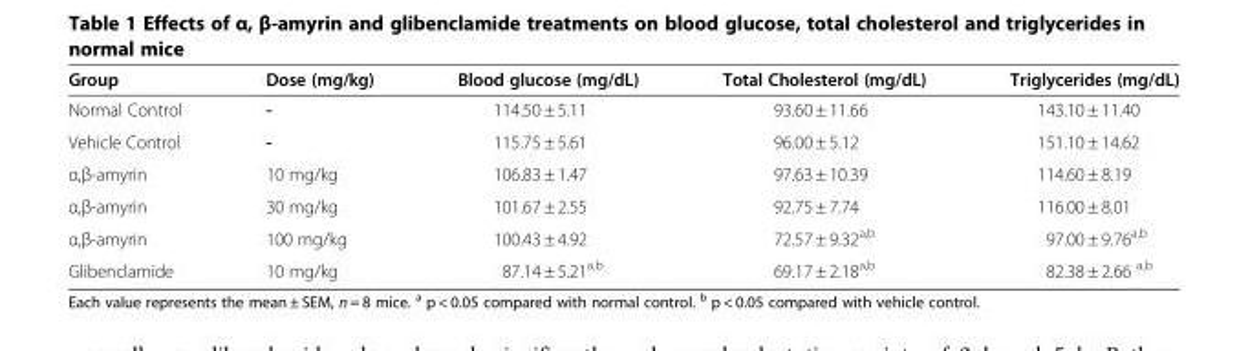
<table><thead><tr><td>Group</td><td>Dose (mg/kg)</td><td>Blood glucose (mg/dL)</td><td>Total Cholesterol (mg/dL)</td><td>Triglycerides (mg/dL)</td></tr></thead><tbody><tr><td>Normal Control</td><td>-</td><td>114.50 ± 5.11</td><td>93.60 ± 11.66</td><td>143.10 ± 11.40</td></tr><tr><td>Vehicle Control</td><td>-</td><td>115.75 ± 5.61</td><td>96.00 ± 5.12</td><td>151.10 ± 14.62</td></tr><tr><td>α,β-amyrin</td><td>10 mg/kg</td><td>106.83 ± 1.47</td><td>97.63 ± 10.39</td><td>114.60 ± 8.19</td></tr><tr><td>α,β-amyrin</td><td>30 mg/kg</td><td>101.67 ± 2.55</td><td>92.75 ± 7.74</td><td>116.00 ± 8.01</td></tr><tr><td>α,β-amyrin</td><td>100 mg/kg</td><td>100.43 ± 4.92</td><td>72.57 ± 9.32<sup>a,b</sup></td><td>97.00 ± 9.76<sup>a,b</sup></td></tr><tr><td>Glibenclamide</td><td>10 mg/kg</td><td>87.14 ± 5.21<sup>a,b</sup></td><td>69.17 ± 2.18<sup>a,b</sup></td><td>82.38 ± 2.66 <sup>a,b</sup></td></tr></tbody></table>